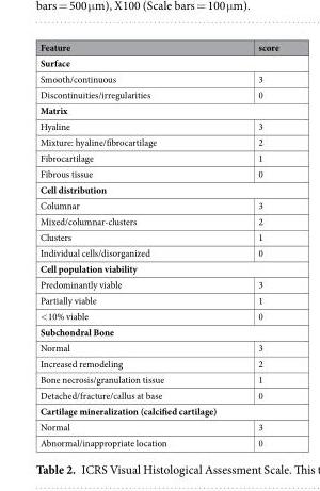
<table><thead><tr><td>Feature</td><td>score</td></tr></thead><tbody><tr><td colspan="2">Surface</td></tr><tr><td>Smooth/continuous</td><td>3</td></tr><tr><td>Discontinuities/irregularities</td><td>0</td></tr><tr><td colspan="2">Matrix</td></tr><tr><td>Hyaline</td><td>3</td></tr><tr><td>Mixture: hyaline/fibrocartilage</td><td>2</td></tr><tr><td>Fibrocartilage</td><td>1</td></tr><tr><td>Fibrous tissue</td><td>0</td></tr><tr><td colspan="2">Cell distribution</td></tr><tr><td>Columnar</td><td>3</td></tr><tr><td>Mixed/columnar-clusters</td><td>2</td></tr><tr><td>Clusters</td><td>1</td></tr><tr><td>Individual cells/disorganized</td><td>0</td></tr><tr><td colspan="2">Cell population viability</td></tr><tr><td>Predominantly viable</td><td>3</td></tr><tr><td>Partially viable</td><td>1</td></tr><tr><td>&lt;10% viable</td><td>0</td></tr><tr><td colspan="2">Subchondral Bone</td></tr><tr><td>Normal</td><td>3</td></tr><tr><td>Increased remodeling</td><td>2</td></tr><tr><td>Bone necrosis/granulation tissue</td><td>1</td></tr><tr><td>Detached/fracture/callus at base</td><td>0</td></tr><tr><td colspan="2">Cartilage mineralization (calcified cartilage)</td></tr><tr><td>Normal</td><td>3</td></tr><tr><td>Abnormal/inappropriate location</td><td>0</td></tr></tbody></table>